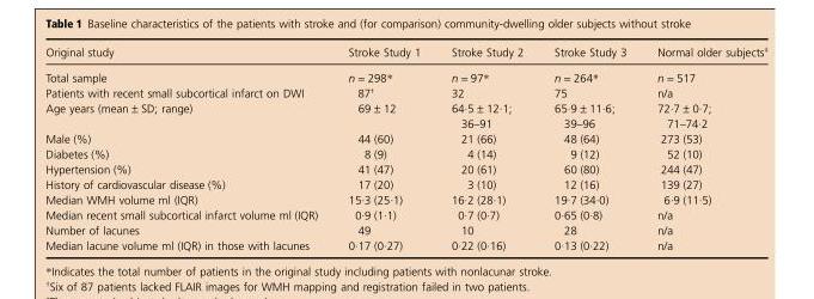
<table><thead><tr><td>Original study</td><td>Stroke Study 1</td><td>Stroke Study 2</td><td>Stroke Study 3</td><td>Normal older subjects‡</td></tr></thead><tbody><tr><td>Total sample</td><td>n = 298*</td><td>n = 97*</td><td>n = 264*</td><td>n = 517</td></tr><tr><td>Patients with recent small subcortical infarct on DWI</td><td>87†</td><td>32</td><td>75</td><td>n/a</td></tr><tr><td>Age years (mean ± SD; range)</td><td>69 ± 12</td><td>64·5 ± 12·1; 36–91</td><td>65·9 ± 11·6; 39–96</td><td>72·7 ± 0·7; 71–74·2</td></tr><tr><td>Male (%)</td><td>44 (60)</td><td>21 (66)</td><td>48 (64)</td><td>273 (53)</td></tr><tr><td>Diabetes (%)</td><td>8 (9)</td><td>4 (14)</td><td>9 (12)</td><td>52 (10)</td></tr><tr><td>Hypertension (%)</td><td>41 (47)</td><td>20 (61)</td><td>60 (80)</td><td>244 (47)</td></tr><tr><td>History of cardiovascular disease (%)</td><td>17 (20)</td><td>3 (10)</td><td>12 (16)</td><td>139 (27)</td></tr><tr><td>Median WMH volume ml (IQR)</td><td>15·3 (25·1)</td><td>16·2 (28·1)</td><td>19·7 (34·0)</td><td>6·9 (11·5)</td></tr><tr><td>Median recent small subcortical infarct volume ml (IQR)</td><td>0·9 (1·1)</td><td>0·7 (0·7)</td><td>0·65 (0·8)</td><td>n/a</td></tr><tr><td>Number of lacunes</td><td>49</td><td>10</td><td>28</td><td>n/a</td></tr><tr><td>Median lacune volume ml (IQR) in those with lacunes</td><td>0·17 (0·27)</td><td>0·22 (0·16)</td><td>0·13 (0·22)</td><td>n/a</td></tr></tbody></table>